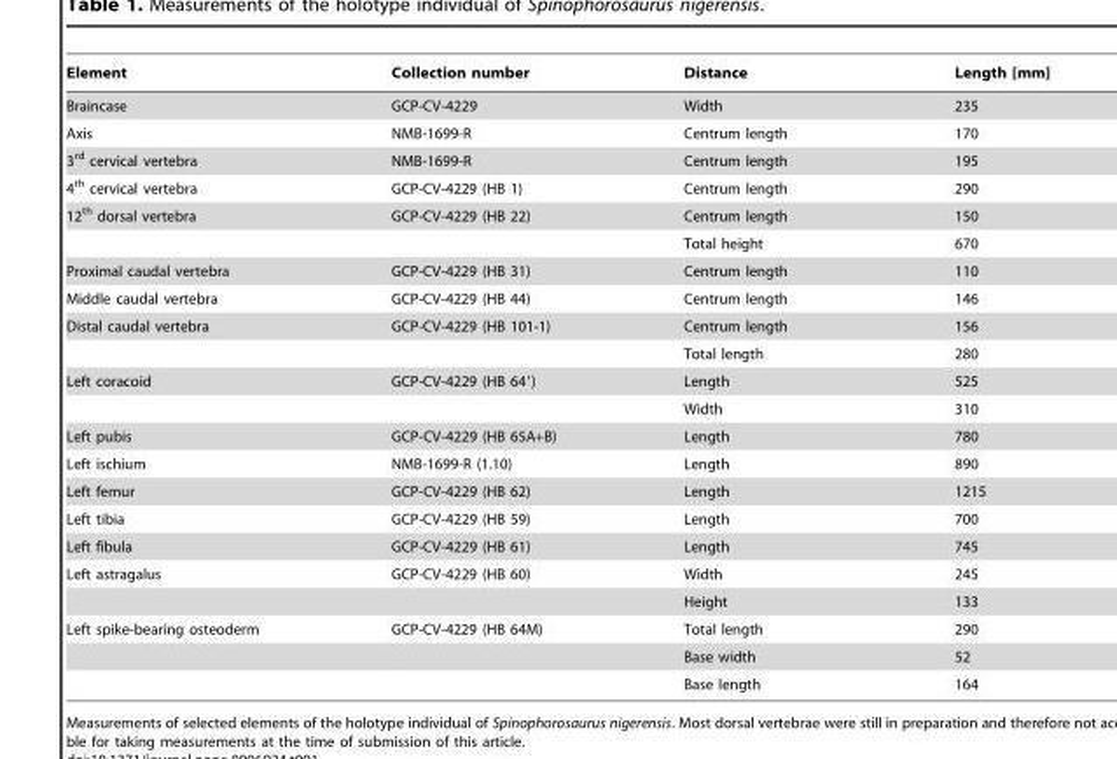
<table><thead><tr><td>Element</td><td>Collection number</td><td>Distance</td><td>Length [mm]</td></tr></thead><tbody><tr><td>Braincase</td><td>GCP-CV-4229</td><td>Width</td><td>235</td></tr><tr><td>Axis</td><td>NMB-1699-R</td><td>Centrum length</td><td>170</td></tr><tr><td>3<sup>rd</sup> cervical vertebra</td><td>NMB-1699-R</td><td>Centrum length</td><td>195</td></tr><tr><td>4<sup>th</sup> cervical vertebra</td><td>GCP-CV-4229 (HB 1)</td><td>Centrum length</td><td>290</td></tr><tr><td rowspan="2">12<sup>th</sup> dorsal vertebra</td><td>GCP-CV-4229 (HB 22)</td><td>Centrum length</td><td>150</td></tr><tr><td></td><td>Total height</td><td>670</td></tr><tr><td>Proximal caudal vertebra</td><td>GCP-CV-4229 (HB 31)</td><td>Centrum length</td><td>110</td></tr><tr><td>Middle caudal vertebra</td><td>GCP-CV-4229 (HB 44)</td><td>Centrum length</td><td>146</td></tr><tr><td rowspan="2">Distal caudal vertebra</td><td>GCP-CV-4229 (HB 101-1)</td><td>Centrum length</td><td>156</td></tr><tr><td></td><td>Total length</td><td>280</td></tr><tr><td rowspan="2">Left coracoid</td><td>GCP-CV-4229 (HB 64′)</td><td>Length</td><td>525</td></tr><tr><td></td><td>Width</td><td>310</td></tr><tr><td>Left pubis</td><td>GCP-CV-4229 (HB 65A+B)</td><td>Length</td><td>780</td></tr><tr><td>Left ischium</td><td>NMB-1699-R (1.10)</td><td>Length</td><td>890</td></tr><tr><td>Left femur</td><td>GCP-CV-4229 (HB 62)</td><td>Length</td><td>1215</td></tr><tr><td>Left tibia</td><td>GCP-CV-4229 (HB 59)</td><td>Length</td><td>700</td></tr><tr><td>Left fibula</td><td>GCP-CV-4229 (HB 61)</td><td>Length</td><td>745</td></tr><tr><td rowspan="2">Left astragalus</td><td>GCP-CV-4229 (HB 60)</td><td>Width</td><td>245</td></tr><tr><td></td><td>Height</td><td>133</td></tr><tr><td rowspan="3">Left spike-bearing osteoderm</td><td>GCP-CV-4229 (HB 64M)</td><td>Total length</td><td>290</td></tr><tr><td></td><td>Base width</td><td>52</td></tr><tr><td></td><td>Base length</td><td>164</td></tr></tbody></table>